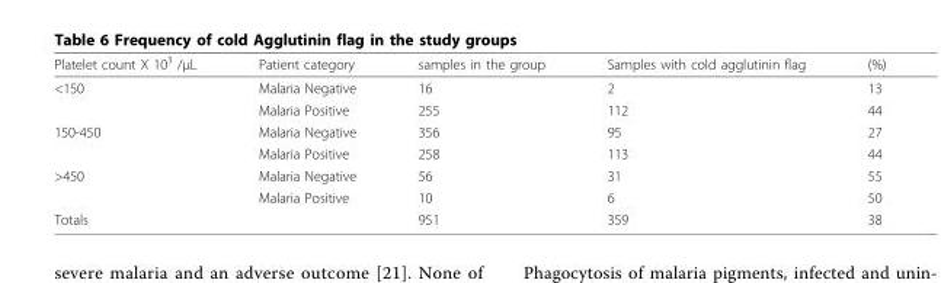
<table><thead><tr><td>Platelet count X 10<sup>3</sup> /µL</td><td>Patient category</td><td>samples in the group</td><td>Samples with cold agglutinin flag</td><td>(%)</td></tr></thead><tbody><tr><td rowspan="2">&lt;150</td><td>Malaria Negative</td><td>16</td><td>2</td><td>13</td></tr><tr><td>Malaria Positive</td><td>255</td><td>112</td><td>44</td></tr><tr><td rowspan="2">150-450</td><td>Malaria Negative</td><td>356</td><td>95</td><td>27</td></tr><tr><td>Malaria Positive</td><td>258</td><td>113</td><td>44</td></tr><tr><td rowspan="2">&gt;450</td><td>Malaria Negative</td><td>56</td><td>31</td><td>55</td></tr><tr><td>Malaria Positive</td><td>10</td><td>6</td><td>50</td></tr><tr><td>Totals</td><td></td><td>951</td><td>359</td><td>38</td></tr></tbody></table>